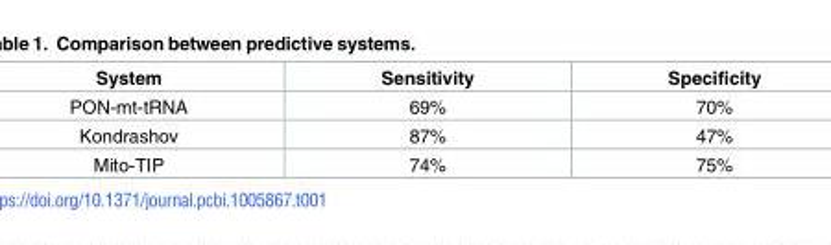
<table><thead><tr><td>System</td><td>Sensitivity</td><td>Specificity</td></tr></thead><tbody><tr><td>PON-mt-tRNA</td><td>69%</td><td>70%</td></tr><tr><td>Kondrashov</td><td>87%</td><td>47%</td></tr><tr><td>Mito-TIP</td><td>74%</td><td>75%</td></tr></tbody></table>